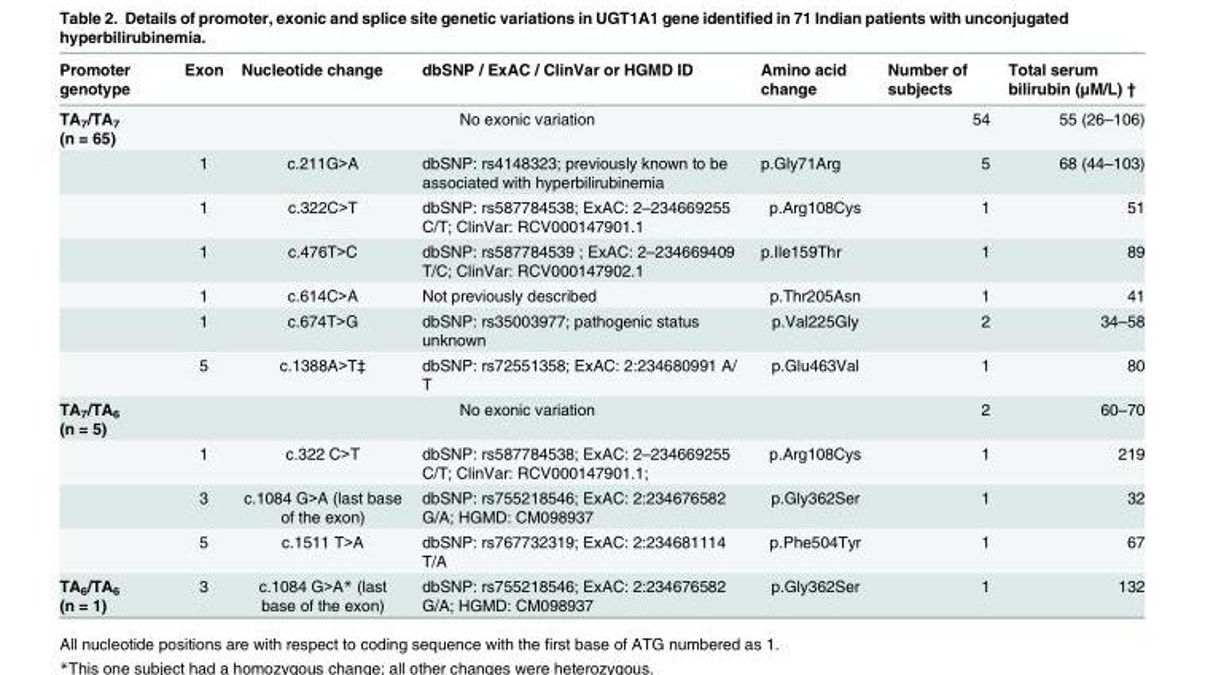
<table><thead><tr><td>Promoter genotype</td><td>Exon</td><td>Nucleotide change</td><td>dbSNP / ExAC / ClinVar or HGMD ID</td><td>Amino acid change</td><td>Number of subjects</td><td>Total serum bilirubin (μM/L) †</td></tr></thead><tbody><tr><td rowspan="7">TA<sub>7</sub>/TA<sub>7</sub> (n = 65)</td><td colspan="4">No exonic variation</td><td>54</td><td>55 (26–106)</td></tr><tr><td>1</td><td>c.211G&gt;A</td><td>dbSNP: rs4148323; previously known to be associated with hyperbilirubinemia</td><td>p.Gly71Arg</td><td>5</td><td>68 (44–103)</td></tr><tr><td>1</td><td>c.322C&gt;T</td><td>dbSNP: rs587784538; ExAC: 2–234669255 C/T; ClinVar: RCV000147901.1</td><td>p.Arg108Cys</td><td>1</td><td>51</td></tr><tr><td>1</td><td>c.476T&gt;C</td><td>dbSNP: rs587784539 ; ExAC: 2–234669409 T/C; ClinVar: RCV000147902.1</td><td>p.Ile159Thr</td><td>1</td><td>89</td></tr><tr><td>1</td><td>c.614C&gt;A</td><td>Not previously described</td><td>p.Thr205Asn</td><td>1</td><td>41</td></tr><tr><td>1</td><td>c.674T&gt;G</td><td>dbSNP: rs35003977; pathogenic status unknown</td><td>p.Val225Gly</td><td>2</td><td>34–58</td></tr><tr><td>5</td><td>c.1388A&gt;T‡</td><td>dbSNP: rs72551358; ExAC: 2:234680991 A/ T</td><td>p.Glu463Val</td><td>1</td><td>80</td></tr><tr><td rowspan="4">TA<sub>7</sub>/TA<sub>6</sub> (n = 5)</td><td colspan="4">No exonic variation</td><td>2</td><td>60–70</td></tr><tr><td>1</td><td>c.322 C&gt;T</td><td>dbSNP: rs587784538; ExAC: 2–234669255 C/T; ClinVar: RCV000147901.1;</td><td>p.Arg108Cys</td><td>1</td><td>219</td></tr><tr><td>3</td><td>c.1084 G&gt;A (last base of the exon)</td><td>dbSNP: rs755218546; ExAC: 2:234676582 G/A; HGMD: CM098937</td><td>p.Gly362Ser</td><td>1</td><td>32</td></tr><tr><td>5</td><td>c.1511 T&gt;A</td><td>dbSNP: rs767732319; ExAC: 2:234681114 T/A</td><td>p.Phe504Tyr</td><td>1</td><td>67</td></tr><tr><td>TA<sub>6</sub>/TA<sub>6</sub> (n = 1)</td><td>3</td><td>c.1084 G&gt;A* (last base of the exon)</td><td>dbSNP: rs755218546; ExAC: 2:234676582 G/A; HGMD: CM098937</td><td>p.Gly362Ser</td><td>1</td><td>132</td></tr></tbody></table>